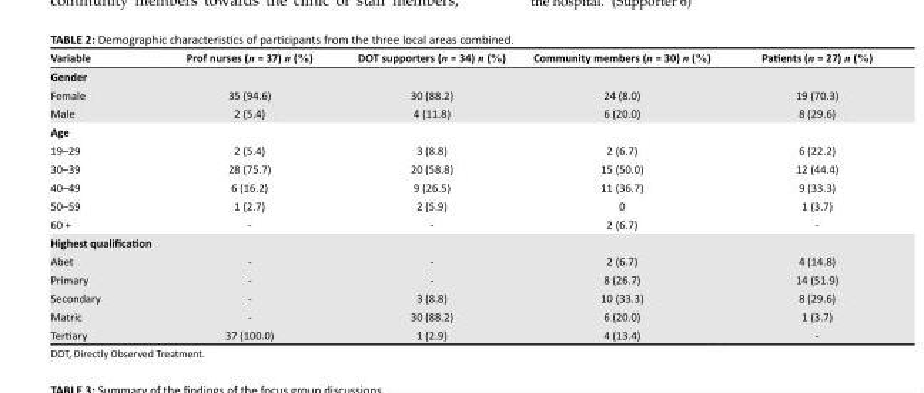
<table><thead><tr><td>Variable</td><td>Prof nurses (n = 37) n (%)</td><td>DOT supporters (n = 34) n (%)</td><td>Community members (n = 30) n (%)</td><td>Patients (n = 27) n (%)</td></tr></thead><tbody><tr><td colspan="5">Gender</td></tr><tr><td>Female</td><td>35 (94.6)</td><td>30 (88.2)</td><td>24 (8.0)</td><td>19 (70.3)</td></tr><tr><td>Male</td><td>2 (5.4)</td><td>4 (11.8)</td><td>6 (20.0)</td><td>8 (29.6)</td></tr><tr><td colspan="5">Age</td></tr><tr><td>19–29</td><td>2 (5.4)</td><td>3 (8.8)</td><td>2 (6.7)</td><td>6 (22.2)</td></tr><tr><td>30–39</td><td>28 (75.7)</td><td>20 (58.8)</td><td>15 (50.0)</td><td>12 (44.4)</td></tr><tr><td>40–49</td><td>6 (16.2)</td><td>9 (26.5)</td><td>11 (36.7)</td><td>9 (33.3)</td></tr><tr><td>50–59</td><td>1 (2.7)</td><td>2 (5.9)</td><td>0</td><td>1 (3.7)</td></tr><tr><td>60 +</td><td>-</td><td>-</td><td>2 (6.7)</td><td>-</td></tr><tr><td colspan="5">Highest qualification</td></tr><tr><td>Abet</td><td>-</td><td>-</td><td>2 (6.7)</td><td>4 (14.8)</td></tr><tr><td>Primary</td><td>-</td><td>-</td><td>8 (26.7)</td><td>14 (51.9)</td></tr><tr><td>Secondary</td><td>-</td><td>3 (8.8)</td><td>10 (33.3)</td><td>8 (29.6)</td></tr><tr><td>Matric</td><td>-</td><td>30 (88.2)</td><td>6 (20.0)</td><td>1 (3.7)</td></tr><tr><td>Tertiary</td><td>37 (100.0)</td><td>1 (2.9)</td><td>4 (13.4)</td><td>-</td></tr></tbody></table>